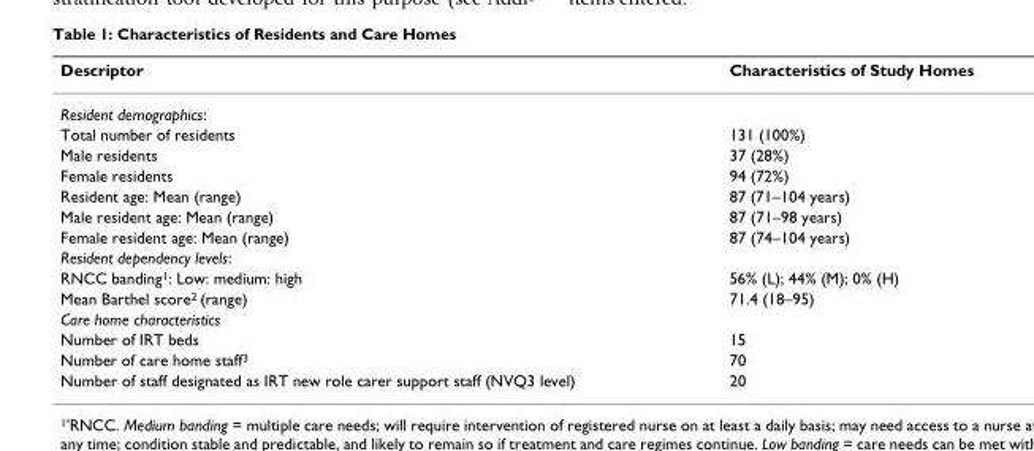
<table><thead><tr><td>Descriptor</td><td>Characteristics of Study Homes</td></tr></thead><tbody><tr><td colspan="2">Resident demographics:</td></tr><tr><td>Total number of residents</td><td>131 (100%)</td></tr><tr><td>Male residents</td><td>37 (28%)</td></tr><tr><td>Female residents</td><td>94 (72%)</td></tr><tr><td>Resident age: Mean (range)</td><td>87 (71–104 years)</td></tr><tr><td>Male resident age: Mean (range)</td><td>87 (71–98 years)</td></tr><tr><td>Female resident age: Mean (range)</td><td>87 (74–104 years)</td></tr><tr><td colspan="2">Resident dependency levels:</td></tr><tr><td>RNCC banding<sup>1</sup>: Low: medium: high</td><td>56% (L); 44% (M); 0% (H)</td></tr><tr><td>Mean Barthel score<sup>2</sup> (range)</td><td>71.4 (18–95)</td></tr><tr><td colspan="2">Care home characteristics</td></tr><tr><td>Number of IRT beds</td><td>15</td></tr><tr><td>Number of care home staff<sup>3</sup></td><td>70</td></tr><tr><td>Number of staff designated as IRT new role carer support staff (NVQ3 level)</td><td>20</td></tr></tbody></table>